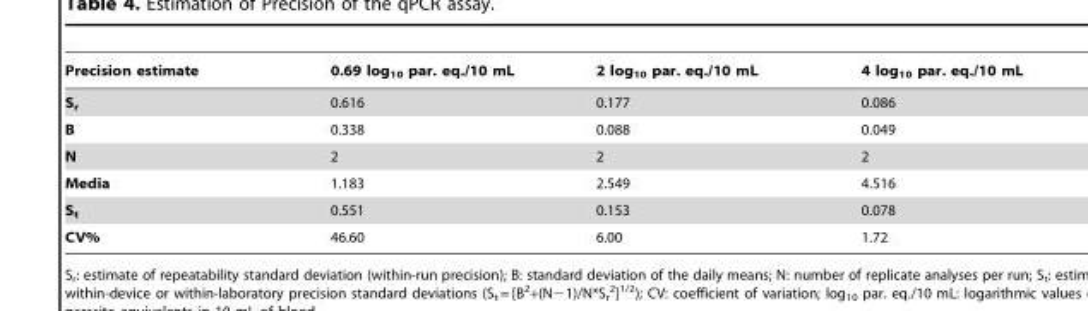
<table><thead><tr><td>Precision estimate</td><td>0.69 log<sub>10</sub> par. eq./10 mL</td><td>2 log<sub>10</sub> par. eq./10 mL</td><td>4 log<sub>10</sub> par. eq./10 mL</td></tr></thead><tbody><tr><td>S<sub>r</sub></td><td>0.616</td><td>0.177</td><td>0.086</td></tr><tr><td>B</td><td>0.338</td><td>0.088</td><td>0.049</td></tr><tr><td>N</td><td>2</td><td>2</td><td>2</td></tr><tr><td>Media</td><td>1.183</td><td>2.549</td><td>4.516</td></tr><tr><td>S<sub>t</sub></td><td>0.551</td><td>0.153</td><td>0.078</td></tr><tr><td>CV%</td><td>46.60</td><td>6.00</td><td>1.72</td></tr></tbody></table>